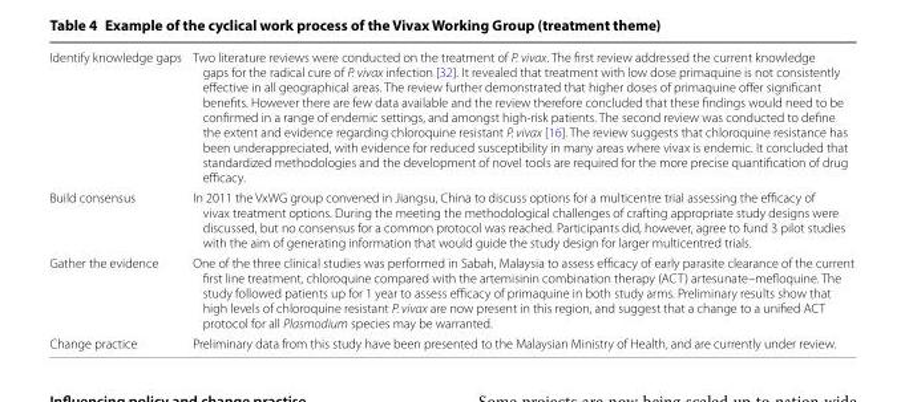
<table><tbody><tr><td>Identify knowledge gaps</td><td>Two literature reviews were conducted on the treatment of P. vivax. The first review addressed the current knowledge gaps for the radical cure of P. vivax infection [32]. It revealed that treatment with low dose primaquine is not consistently effective in all geographical areas. The review further demonstrated that higher doses of primaquine offer significant benefits. However there are few data available and the review therefore concluded that these findings would need to be confirmed in a range of endemic settings, and amongst high-risk patients. The second review was conducted to define the extent and evidence regarding chloroquine resistant P. vivax [16]. The review suggests that chloroquine resistance has been underappreciated, with evidence for reduced susceptibility in many areas where vivax is endemic. It concluded that standardized methodologies and the development of novel tools are required for the more precise quantification of drug efficacy.</td></tr><tr><td>Build consensus</td><td>In 2011 the VxWG group convened in Jiangsu, China to discuss options for a multicentre trial assessing the efficacy of vivax treatment options. During the meeting the methodological challenges of crafting appropriate study designs were discussed, but no consensus for a common protocol was reached. Participants did, however, agree to fund 3 pilot studies with the aim of generating information that would guide the study design for larger multicentred trials.</td></tr><tr><td>Gather the evidence</td><td>One of the three clinical studies was performed in Sabah, Malaysia to assess efficacy of early parasite clearance of the current first line treatment, chloroquine compared with the artemisinin combination therapy (ACT) artesunate–mefloquine. The study followed patients up for 1 year to assess efficacy of primaquine in both study arms. Preliminary results show that high levels of chloroquine resistant P. vivax are now present in this region, and suggest that a change to a unified ACT protocol for all Plasmodium species may be warranted.</td></tr><tr><td>Change practice</td><td>Preliminary data from this study have been presented to the Malaysian Ministry of Health, and are currently under review.</td></tr></tbody></table>